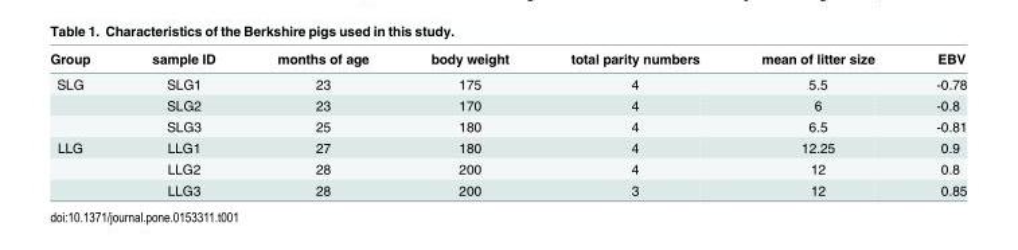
<table><thead><tr><td>Group</td><td>sample ID</td><td>months of age</td><td>body weight</td><td>total parity numbers</td><td>mean of litter size</td><td>EBV</td></tr></thead><tbody><tr><td rowspan="3">SLG</td><td>SLG1</td><td>23</td><td>175</td><td>4</td><td>5.5</td><td>-0.78</td></tr><tr><td>SLG2</td><td>23</td><td>170</td><td>4</td><td>6</td><td>-0.8</td></tr><tr><td>SLG3</td><td>25</td><td>180</td><td>4</td><td>6.5</td><td>-0.81</td></tr><tr><td rowspan="3">LLG</td><td>LLG1</td><td>27</td><td>180</td><td>4</td><td>12.25</td><td>0.9</td></tr><tr><td>LLG2</td><td>28</td><td>200</td><td>4</td><td>12</td><td>0.8</td></tr><tr><td>LLG3</td><td>28</td><td>200</td><td>3</td><td>12</td><td>0.85</td></tr></tbody></table>